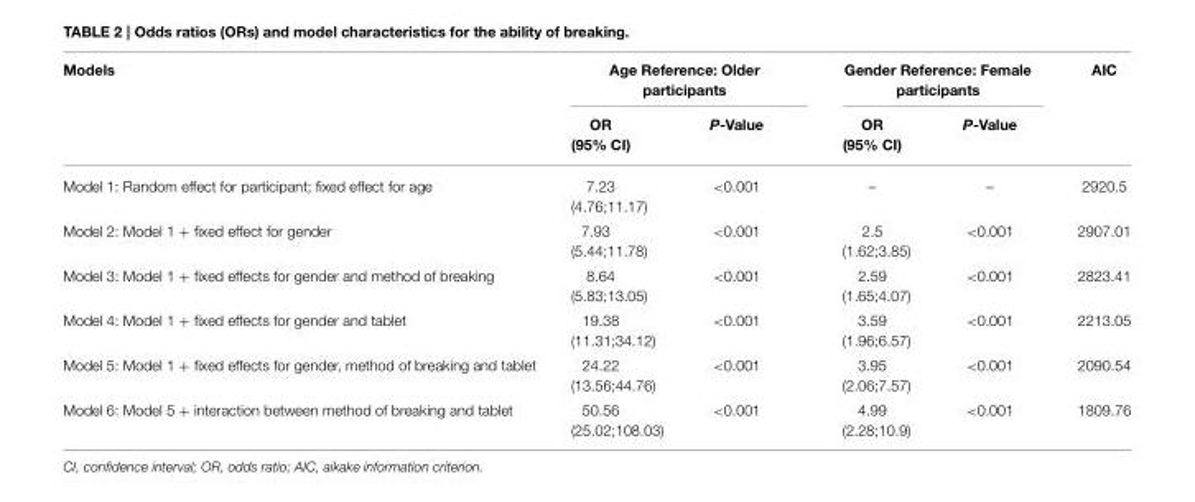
<table><thead><tr><td rowspan="2">Models</td><td colspan="2">Age Reference: Older participants</td><td colspan="2">Gender Reference: Female participants</td><td rowspan="2">AIC</td></tr><tr><td>OR (95% CI)</td><td>P-Value</td><td>OR (95% CI)</td><td>P-Value</td></tr></thead><tbody><tr><td>Model 1: Random effect for participant; fixed effect for age</td><td>7.23 (4.76;11.17)</td><td>&lt;0.001</td><td>–</td><td>–</td><td>2920.5</td></tr><tr><td>Model 2: Model 1 + fixed effect for gender</td><td>7.93 (5.44;11.78)</td><td>&lt;0.001</td><td>2.5 (1.62;3.85)</td><td>&lt;0.001</td><td>2907.01</td></tr><tr><td>Model 3: Model 1 + fixed effects for gender and method of breaking</td><td>8.64 (5.83;13.05)</td><td>&lt;0.001</td><td>2.59 (1.65;4.07)</td><td>&lt;0.001</td><td>2823.41</td></tr><tr><td>Model 4: Model 1 + fixed effects for gender and tablet</td><td>19.38 (11.31;34.12)</td><td>&lt;0.001</td><td>3.59 (1.96;6.57)</td><td>&lt;0.001</td><td>2213.05</td></tr><tr><td>Model 5: Model 1 + fixed effects for gender, method of breaking and tablet</td><td>24.22 (13.56;44.76)</td><td>&lt;0.001</td><td>3.95 (2.06;7.57)</td><td>&lt;0.001</td><td>2090.54</td></tr><tr><td>Model 6: Model 5 + interaction between method of breaking and tablet</td><td>50.56 (25.02;108.03)</td><td>&lt;0.001</td><td>4.99 (2.28;10.9)</td><td>&lt;0.001</td><td>1809.76</td></tr></tbody></table>